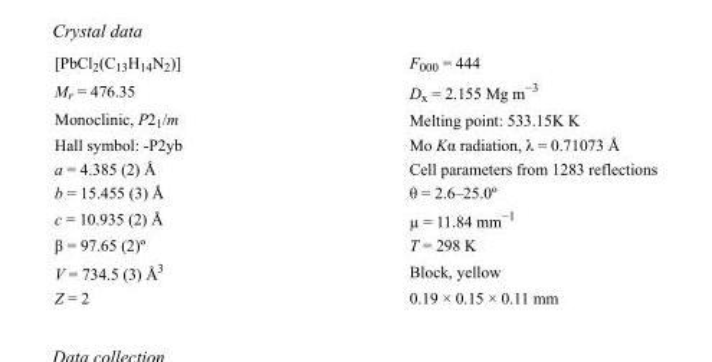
<table><tbody><tr><td>[PbCl<sub>2</sub>(C<sub>13</sub>H<sub>14</sub>N<sub>2</sub>)]</td><td>F000 = 444</td></tr><tr><td>M<sub>r</sub> = 476.35</td><td>D<sub>x</sub> = 2.155 Mg m<sup>−3</sup></td></tr><tr><td>Monoclinic, P2<sub>1</sub>/m</td><td>Melting point: 533.15K K</td></tr><tr><td>Hall symbol: -P2yb</td><td>Mo Kα radiation, λ = 0.71073 Å</td></tr><tr><td>a = 4.385 (2) Å</td><td>Cell parameters from 1283 reflections</td></tr><tr><td>b = 15.455 (3) Å</td><td>θ = 2.6–25.0º</td></tr><tr><td>c = 10.935 (2) Å</td><td>µ = 11.84 mm<sup>−1</sup></td></tr><tr><td>β = 97.65 (2)º</td><td>T = 298 K</td></tr><tr><td>V = 734.5 (3) Å<sup>3</sup></td><td>Block, yellow</td></tr><tr><td>Z = 2</td><td>0.19 × 0.15 × 0.11 mm</td></tr></tbody></table>